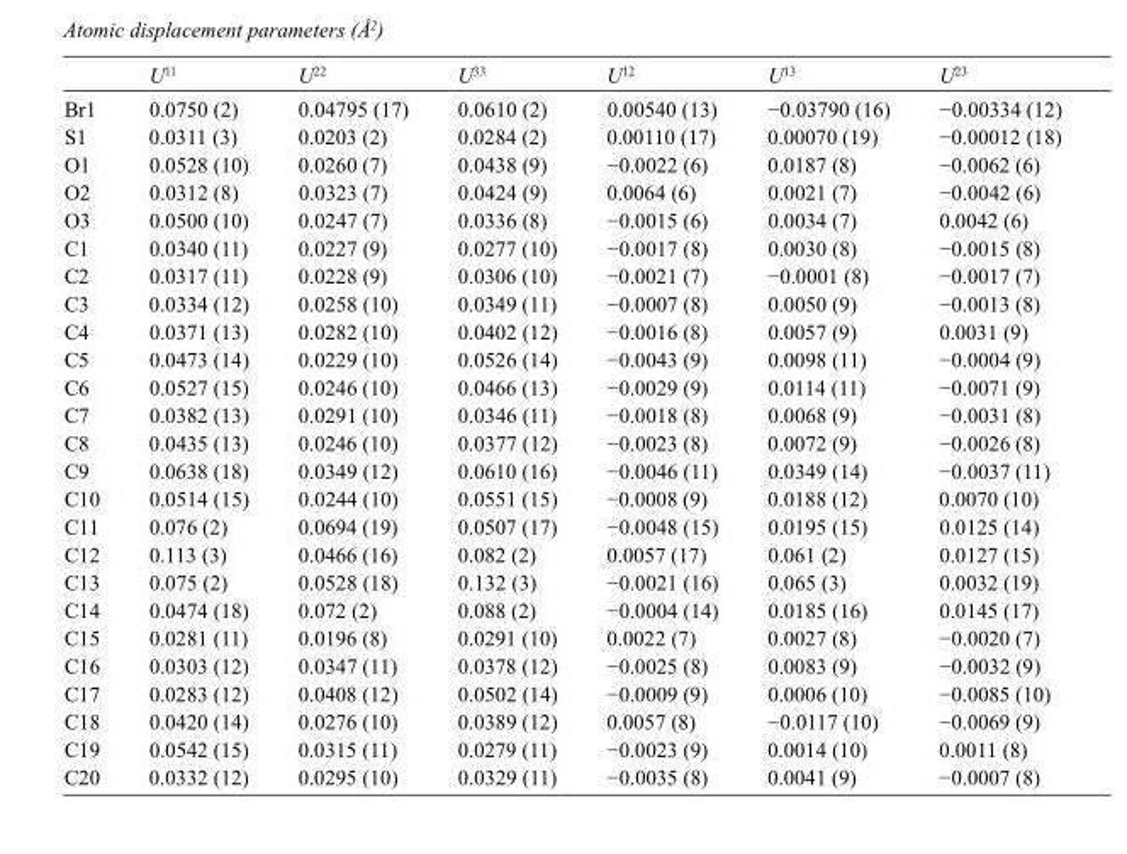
<table><thead><tr><td></td><td>U<sup>11</sup></td><td>U<sup>22</sup></td><td>U<sup>33</sup></td><td>U<sup>12</sup></td><td>U<sup>13</sup></td><td>U<sup>23</sup></td></tr></thead><tbody><tr><td>Br1</td><td>0.0750 (2)</td><td>0.04795 (17)</td><td>0.0610 (2)</td><td>0.00540 (13)</td><td>−0.03790 (16)</td><td>−0.00334 (12)</td></tr><tr><td>S1</td><td>0.0311 (3)</td><td>0.0203 (2)</td><td>0.0284 (2)</td><td>0.00110 (17)</td><td>0.00070 (19)</td><td>−0.00012 (18)</td></tr><tr><td>O1</td><td>0.0528 (10)</td><td>0.0260 (7)</td><td>0.0438 (9)</td><td>−0.0022 (6)</td><td>0.0187 (8)</td><td>−0.0062 (6)</td></tr><tr><td>O2</td><td>0.0312 (8)</td><td>0.0323 (7)</td><td>0.0424 (9)</td><td>0.0064 (6)</td><td>0.0021 (7)</td><td>−0.0042 (6)</td></tr><tr><td>O3</td><td>0.0500 (10)</td><td>0.0247 (7)</td><td>0.0336 (8)</td><td>−0.0015 (6)</td><td>0.0034 (7)</td><td>0.0042 (6)</td></tr><tr><td>C1</td><td>0.0340 (11)</td><td>0.0227 (9)</td><td>0.0277 (10)</td><td>−0.0017 (8)</td><td>0.0030 (8)</td><td>−0.0015 (8)</td></tr><tr><td>C2</td><td>0.0317 (11)</td><td>0.0228 (9)</td><td>0.0306 (10)</td><td>−0.0021 (7)</td><td>−0.0001 (8)</td><td>−0.0017 (7)</td></tr><tr><td>C3</td><td>0.0334 (12)</td><td>0.0258 (10)</td><td>0.0349 (11)</td><td>−0.0007 (8)</td><td>0.0050 (9)</td><td>−0.0013 (8)</td></tr><tr><td>C4</td><td>0.0371 (13)</td><td>0.0282 (10)</td><td>0.0402 (12)</td><td>−0.0016 (8)</td><td>0.0057 (9)</td><td>0.0031 (9)</td></tr><tr><td>C5</td><td>0.0473 (14)</td><td>0.0229 (10)</td><td>0.0526 (14)</td><td>−0.0043 (9)</td><td>0.0098 (11)</td><td>−0.0004 (9)</td></tr><tr><td>C6</td><td>0.0527 (15)</td><td>0.0246 (10)</td><td>0.0466 (13)</td><td>−0.0029 (9)</td><td>0.0114 (11)</td><td>−0.0071 (9)</td></tr><tr><td>C7</td><td>0.0382 (13)</td><td>0.0291 (10)</td><td>0.0346 (11)</td><td>−0.0018 (8)</td><td>0.0068 (9)</td><td>−0.0031 (8)</td></tr><tr><td>C8</td><td>0.0435 (13)</td><td>0.0246 (10)</td><td>0.0377 (12)</td><td>−0.0023 (8)</td><td>0.0072 (9)</td><td>−0.0026 (8)</td></tr><tr><td>C9</td><td>0.0638 (18)</td><td>0.0349 (12)</td><td>0.0610 (16)</td><td>−0.0046 (11)</td><td>0.0349 (14)</td><td>−0.0037 (11)</td></tr><tr><td>C10</td><td>0.0514 (15)</td><td>0.0244 (10)</td><td>0.0551 (15)</td><td>−0.0008 (9)</td><td>0.0188 (12)</td><td>0.0070 (10)</td></tr><tr><td>C11</td><td>0.076 (2)</td><td>0.0694 (19)</td><td>0.0507 (17)</td><td>−0.0048 (15)</td><td>0.0195 (15)</td><td>0.0125 (14)</td></tr><tr><td>C12</td><td>0.113 (3)</td><td>0.0466 (16)</td><td>0.082 (2)</td><td>0.0057 (17)</td><td>0.061 (2)</td><td>0.0127 (15)</td></tr><tr><td>C13</td><td>0.075 (2)</td><td>0.0528 (18)</td><td>0.132 (3)</td><td>−0.0021 (16)</td><td>0.065 (3)</td><td>0.0032 (19)</td></tr><tr><td>C14</td><td>0.0474 (18)</td><td>0.072 (2)</td><td>0.088 (2)</td><td>−0.0004 (14)</td><td>0.0185 (16)</td><td>0.0145 (17)</td></tr><tr><td>C15</td><td>0.0281 (11)</td><td>0.0196 (8)</td><td>0.0291 (10)</td><td>0.0022 (7)</td><td>0.0027 (8)</td><td>−0.0020 (7)</td></tr><tr><td>C16</td><td>0.0303 (12)</td><td>0.0347 (11)</td><td>0.0378 (12)</td><td>−0.0025 (8)</td><td>0.0083 (9)</td><td>−0.0032 (9)</td></tr><tr><td>C17</td><td>0.0283 (12)</td><td>0.0408 (12)</td><td>0.0502 (14)</td><td>−0.0009 (9)</td><td>0.0006 (10)</td><td>−0.0085 (10)</td></tr><tr><td>C18</td><td>0.0420 (14)</td><td>0.0276 (10)</td><td>0.0389 (12)</td><td>0.0057 (8)</td><td>−0.0117 (10)</td><td>−0.0069 (9)</td></tr><tr><td>C19</td><td>0.0542 (15)</td><td>0.0315 (11)</td><td>0.0279 (11)</td><td>−0.0023 (9)</td><td>0.0014 (10)</td><td>0.0011 (8)</td></tr><tr><td>C20</td><td>0.0332 (12)</td><td>0.0295 (10)</td><td>0.0329 (11)</td><td>−0.0035 (8)</td><td>0.0041 (9)</td><td>−0.0007 (8)</td></tr></tbody></table>